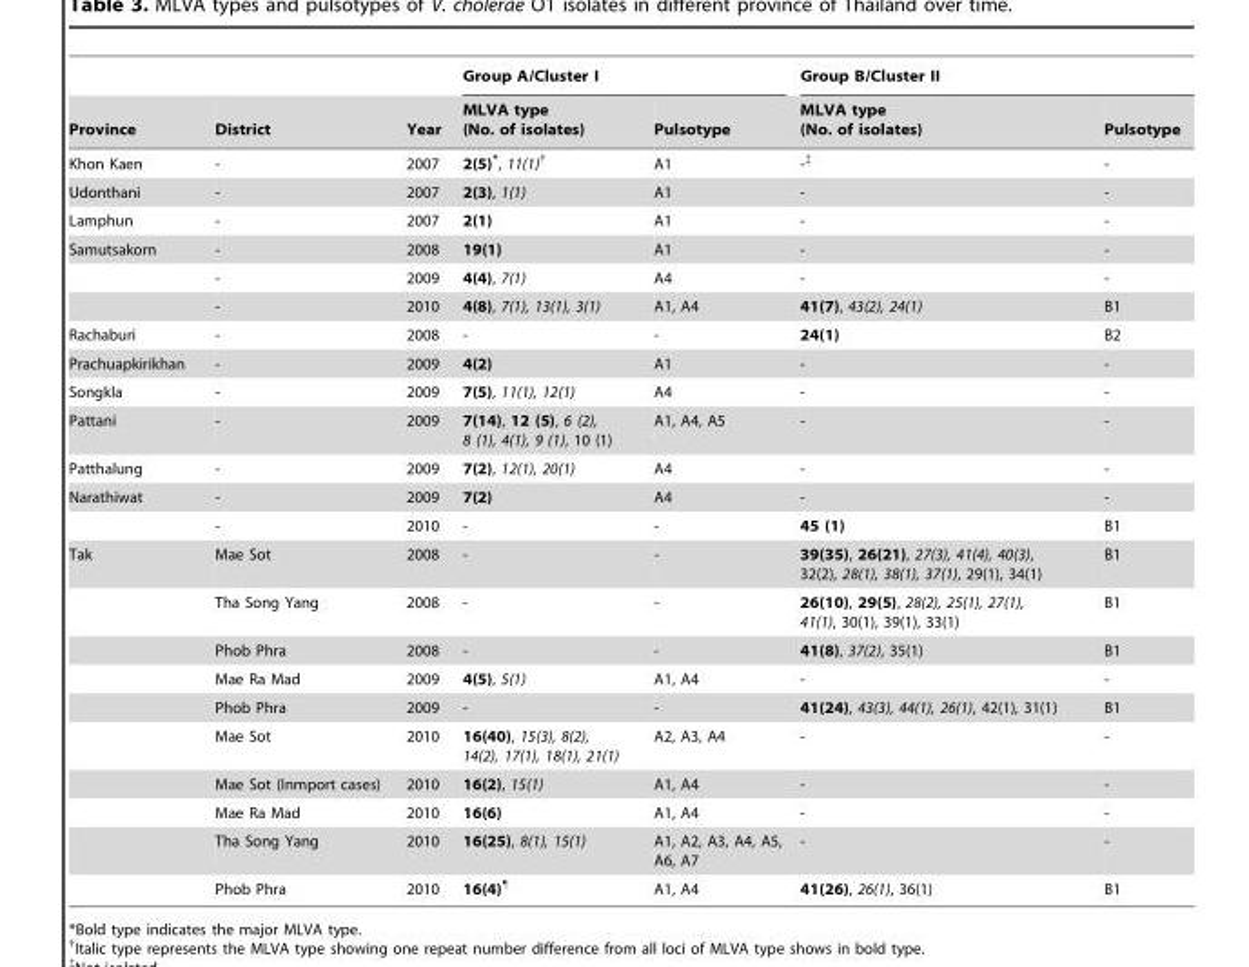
<table><thead><tr><td rowspan="2">Province</td><td rowspan="2">District</td><td rowspan="2">Year</td><td colspan="2">Group A/Cluster I</td><td colspan="2">Group B/Cluster II</td></tr><tr><td>MLVA type (No. of isolates)</td><td>Pulsotype</td><td>MLVA type (No. of isolates)</td><td>Pulsotype</td></tr></thead><tbody><tr><td>Khon Kaen</td><td>-</td><td>2007</td><td>2(5)*, 11(1)†</td><td>A1</td><td>-‡</td><td>-</td></tr><tr><td>Udonthani</td><td>-</td><td>2007</td><td>2(3), 1(1)</td><td>A1</td><td>-</td><td>-</td></tr><tr><td>Lamphun</td><td>-</td><td>2007</td><td>2(1)</td><td>A1</td><td>-</td><td>-</td></tr><tr><td rowspan="3">Samutsakorn</td><td>-</td><td>2008</td><td>19(1)</td><td>A1</td><td>-</td><td>-</td></tr><tr><td>-</td><td>2009</td><td>4(4), 7(1)</td><td>A4</td><td>-</td><td>-</td></tr><tr><td>-</td><td>2010</td><td>4(8), 7(1), 13(1), 3(1)</td><td>A1, A4</td><td>41(7), 43(2), 24(1)</td><td>B1</td></tr><tr><td>Rachaburi</td><td>-</td><td>2008</td><td>-</td><td>-</td><td>24(1)</td><td>B2</td></tr><tr><td>Prachuapkirikhan</td><td>-</td><td>2009</td><td>4(2)</td><td>A1</td><td>-</td><td>-</td></tr><tr><td>Songkla</td><td>-</td><td>2009</td><td>7(5), 11(1), 12(1)</td><td>A4</td><td>-</td><td>-</td></tr><tr><td>Pattani</td><td>-</td><td>2009</td><td>7(14), 12 (5), 6 (2), 8 (1), 4(1), 9 (1), 10 (1)</td><td>A1, A4, A5</td><td>-</td><td>-</td></tr><tr><td>Patthalung</td><td>-</td><td>2009</td><td>7(2), 12(1), 20(1)</td><td>A4</td><td>-</td><td>-</td></tr><tr><td rowspan="2">Narathiwat</td><td>-</td><td>2009</td><td>7(2)</td><td>A4</td><td>-</td><td>-</td></tr><tr><td>-</td><td>2010</td><td>-</td><td>-</td><td>45 (1)</td><td>B1</td></tr><tr><td rowspan="10">Tak</td><td>Mae Sot</td><td>2008</td><td>-</td><td>-</td><td>39(35), 26(21), 27(3), 41(4), 40(3), 32(2), 28(1), 38(1), 37(1), 29(1), 34(1)</td><td>B1</td></tr><tr><td>Tha Song Yang</td><td>2008</td><td>-</td><td>-</td><td>26(10), 29(5), 28(2), 25(1), 27(1), 41(1), 30(1), 39(1), 33(1)</td><td>B1</td></tr><tr><td>Phob Phra</td><td>2008</td><td>-</td><td>-</td><td>41(8), 37(2), 35(1)</td><td>B1</td></tr><tr><td>Mae Ra Mad</td><td>2009</td><td>4(5), 5(1)</td><td>A1, A4</td><td>-</td><td>-</td></tr><tr><td>Phob Phra</td><td>2009</td><td>-</td><td>-</td><td>41(24), 43(3), 44(1), 26(1), 42(1), 31(1)</td><td>B1</td></tr><tr><td>Mae Sot</td><td>2010</td><td>16(40), 15(3), 8(2), 14(2), 17(1), 18(1), 21(1)</td><td>A2, A3, A4</td><td>-</td><td>-</td></tr><tr><td>Mae Sot (Inmport cases)</td><td>2010</td><td>16(2), 15(1)</td><td>A1, A4</td><td>-</td><td>-</td></tr><tr><td>Mae Ra Mad</td><td>2010</td><td>16(6)</td><td>A1, A4</td><td>-</td><td>-</td></tr><tr><td>Tha Song Yang</td><td>2010</td><td>16(25), 8(1), 15(1)</td><td>A1, A2, A3, A4, A5, A6, A7</td><td>-</td><td>-</td></tr><tr><td>Phob Phra</td><td>2010</td><td>16(4)¶</td><td>A1, A4</td><td>41(26), 26(1), 36(1)</td><td>B1</td></tr></tbody></table>